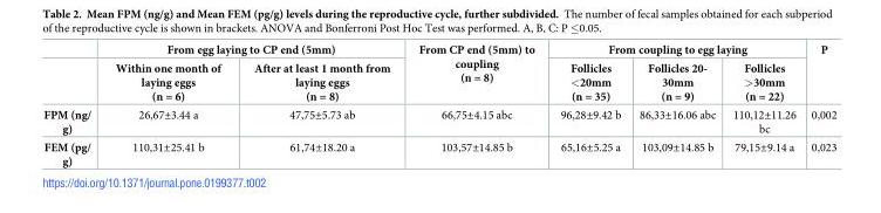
<table><thead><tr><td rowspan="2"></td><td colspan="2">From egg laying to CP end (5mm)</td><td rowspan="2">From CP end (5mm) to coupling (n = 8)</td><td colspan="3">From coupling to egg laying</td><td rowspan="2">P</td></tr><tr><td>Within one month of laying eggs (n = 6)</td><td>After at least 1 month from laying eggs (n = 8)</td><td>Follicles &lt;20mm (n = 35)</td><td>Follicles 20- 30mm (n = 9)</td><td>Follicles &gt;30mm (n = 22)</td></tr></thead><tbody><tr><td>FPM (ng/ g)</td><td>26,67±3.44 a</td><td>47,75±5.73 ab</td><td>66,75±4.15 abc</td><td>96,28±9.42 b</td><td>86,33±16.06 abc</td><td>110,12±11.26 bc</td><td>0,002</td></tr><tr><td>FEM (pg/ g)</td><td>110,31±25.41 b</td><td>61,74±18.20 a</td><td>103,57±14.85 b</td><td>65,16±5.25 a</td><td>103,09±14.85 b</td><td>79,15±9.14 a</td><td>0,023</td></tr></tbody></table>